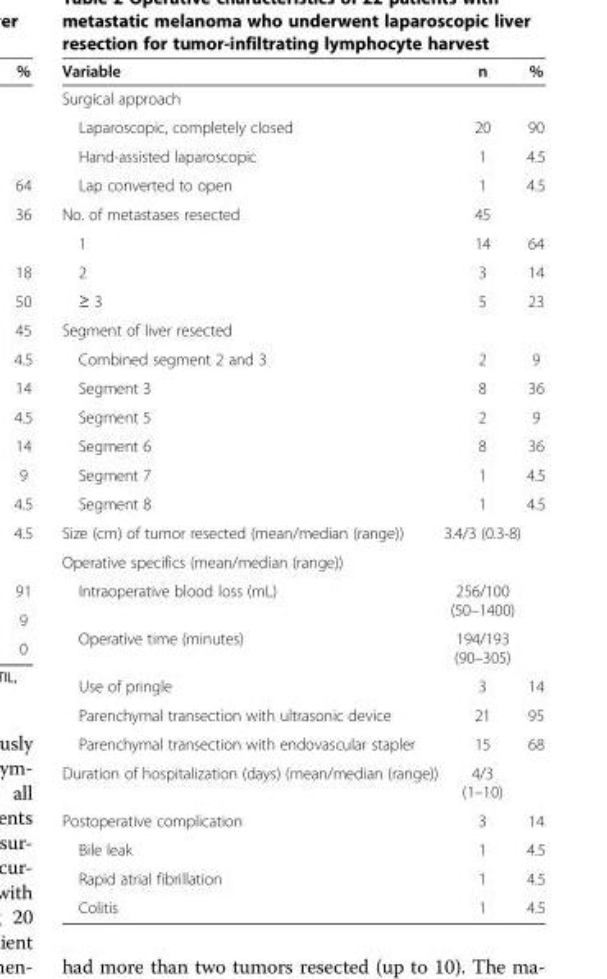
<table><thead><tr><td>Variable</td><td>n</td><td>%</td></tr></thead><tbody><tr><td colspan="3">Surgical approach</td></tr><tr><td>Laparoscopic, completely closed</td><td>20</td><td>90</td></tr><tr><td>Hand-assisted laparoscopic</td><td>1</td><td>4.5</td></tr><tr><td>Lap converted to open</td><td>1</td><td>4.5</td></tr><tr><td>No. of metastases resected</td><td>45</td><td></td></tr><tr><td>1</td><td>14</td><td>64</td></tr><tr><td>2</td><td>3</td><td>14</td></tr><tr><td>≥ 3</td><td>5</td><td>23</td></tr><tr><td colspan="3">Segment of liver resected</td></tr><tr><td>Combined segment 2 and 3</td><td>2</td><td>9</td></tr><tr><td>Segment 3</td><td>8</td><td>36</td></tr><tr><td>Segment 5</td><td>2</td><td>9</td></tr><tr><td>Segment 6</td><td>8</td><td>36</td></tr><tr><td>Segment 7</td><td>1</td><td>4.5</td></tr><tr><td>Segment 8</td><td>1</td><td>4.5</td></tr><tr><td>Size (cm) of tumor resected (mean/median (range))</td><td>3.4/3 (0.3-8)</td><td></td></tr><tr><td colspan="3">Operative specifics (mean/median (range))</td></tr><tr><td>Intraoperative blood loss (mL)</td><td>256/100 (50–1400)</td><td></td></tr><tr><td>Operative time (minutes)</td><td>194/193 (90–305)</td><td></td></tr><tr><td>Use of pringle</td><td>3</td><td>14</td></tr><tr><td>Parenchymal transection with ultrasonic device</td><td>21</td><td>95</td></tr><tr><td>Parenchymal transection with endovascular stapler</td><td>15</td><td>68</td></tr><tr><td>Duration of hospitalization (days) (mean/median (range))</td><td>4/3 (1–10)</td><td></td></tr><tr><td>Postoperative complication</td><td>3</td><td>14</td></tr><tr><td>Bile leak</td><td>1</td><td>4.5</td></tr><tr><td>Rapid atrial fibrillation</td><td>1</td><td>4.5</td></tr><tr><td>Colitis</td><td>1</td><td>4.5</td></tr></tbody></table>